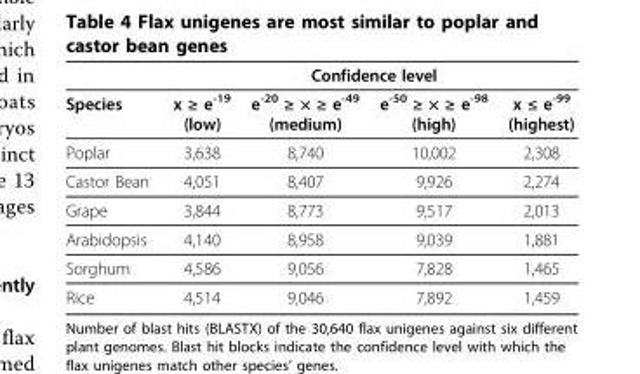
<table><thead><tr><td rowspan="2">Species</td><td colspan="4">Confidence level</td></tr><tr><td>x ≥ e<sup>-19</sup> (low)</td><td>e<sup>-20</sup> ≥ × ≥ e<sup>-49</sup> (medium)</td><td>e<sup>-50</sup> ≥ × ≥ e<sup>-98</sup> (high)</td><td>x ≤ e<sup>-99</sup> (highest)</td></tr></thead><tbody><tr><td>Poplar</td><td>3,638</td><td>8,740</td><td>10,002</td><td>2,308</td></tr><tr><td>Castor Bean</td><td>4,051</td><td>8,407</td><td>9,926</td><td>2,274</td></tr><tr><td>Grape</td><td>3,844</td><td>8,773</td><td>9,517</td><td>2,013</td></tr><tr><td>Arabidopsis</td><td>4,140</td><td>8,958</td><td>9,039</td><td>1,881</td></tr><tr><td>Sorghum</td><td>4,586</td><td>9,056</td><td>7,828</td><td>1,465</td></tr><tr><td>Rice</td><td>4,514</td><td>9,046</td><td>7,892</td><td>1,459</td></tr></tbody></table>